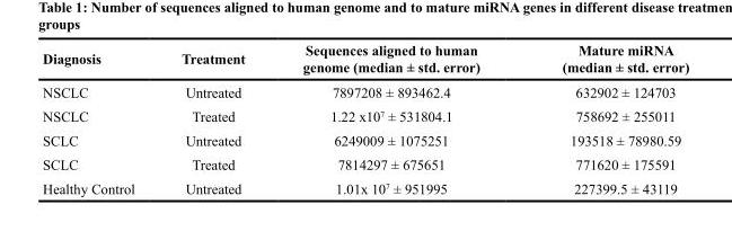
<table><thead><tr><td>Diagnosis</td><td>Treatment</td><td>Sequences aligned to human genome (median ± std. error)</td><td>Mature miRNA (median ± std. error)</td></tr></thead><tbody><tr><td>NSCLC</td><td>Untreated</td><td>7897208 ± 893462.4</td><td>632902 ± 124703</td></tr><tr><td>NSCLC</td><td>Treated</td><td>1.22 x10<sup>7</sup> ± 531804.1</td><td>758692 ± 255011</td></tr><tr><td>SCLC</td><td>Untreated</td><td>6249009 ± 1075251</td><td>193518 ± 78980.59</td></tr><tr><td>SCLC</td><td>Treated</td><td>7814297 ± 675651</td><td>771620 ± 175591</td></tr><tr><td>Healthy Control</td><td>Untreated</td><td>1.01x 10<sup>7</sup> ± 951995</td><td>227399.5 ± 43119</td></tr></tbody></table>